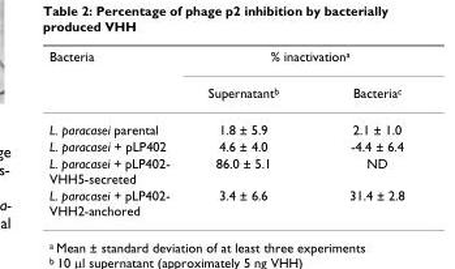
<table><thead><tr><td rowspan="2">Bacteria</td><td colspan="2">% inactivation<sup>a</sup></td></tr><tr><td>Supernatant<sup>b</sup></td><td>Bacteria<sup>c</sup></td></tr></thead><tbody><tr><td>L. paracasei parental</td><td>1.8 ± 5.9</td><td>2.1 ± 1.0</td></tr><tr><td>L. paracasei + pLP402</td><td>4.6 ± 4.0</td><td>-4.4 ± 6.4</td></tr><tr><td>L. paracasei + pLP402- VHH5-secreted</td><td>86.0 ± 5.1</td><td>ND</td></tr><tr><td>L. paracasei + pLP402- VHH2-anchored</td><td>3.4 ± 6.6</td><td>31.4 ± 2.8</td></tr></tbody></table>